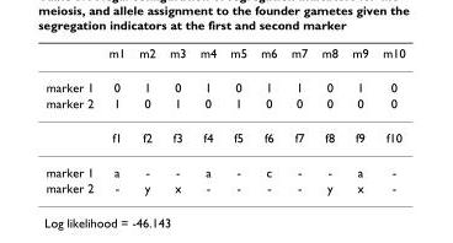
<table><thead><tr><td></td><td>m1</td><td>m2</td><td>m3</td><td>m4</td><td>m5</td><td>m6</td><td>m7</td><td>m8</td><td>m9</td><td>m10</td></tr></thead><tbody><tr><td>marker 1</td><td>0</td><td>1</td><td>0</td><td>1</td><td>0</td><td>1</td><td>1</td><td>0</td><td>1</td><td>0</td></tr><tr><td rowspan="2">marker 2</td><td>1</td><td>0</td><td>1</td><td>0</td><td>1</td><td>0</td><td>0</td><td>0</td><td>0</td><td>0</td></tr><tr><td>f1</td><td>f2</td><td>f3</td><td>f4</td><td>f5</td><td>f6</td><td>f7</td><td>f8</td><td>f9</td><td>f10</td></tr><tr><td>marker 1</td><td>a</td><td>-</td><td>-</td><td>a</td><td>-</td><td>c</td><td>-</td><td>-</td><td>a</td><td>-</td></tr><tr><td>marker 2</td><td>-</td><td>y</td><td>x</td><td>-</td><td>-</td><td>-</td><td>-</td><td>y</td><td>x</td><td>-</td></tr></tbody></table>